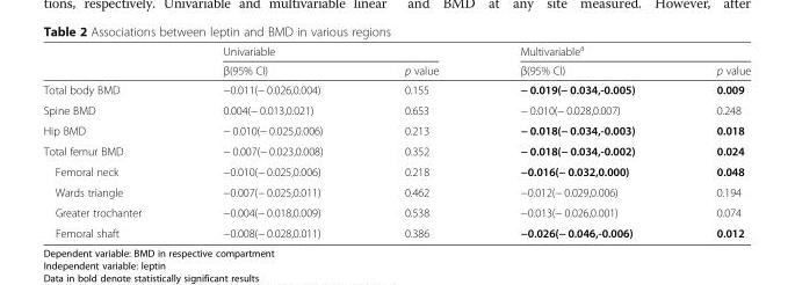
<table><thead><tr><td rowspan="2"></td><td colspan="2">Univariable</td><td colspan="2">Multivariable<sup>a</sup></td></tr><tr><td>β(95% CI)</td><td>p value</td><td>β(95% CI)</td><td>p value</td></tr></thead><tbody><tr><td>Total body BMD</td><td>−0.011(− 0.026,0.004)</td><td>0.155</td><td>− 0.019(− 0.034,-0.005)</td><td>0.009</td></tr><tr><td>Spine BMD</td><td>0.004(− 0.013,0.021)</td><td>0.653</td><td>− 0.010(− 0.028,0.007)</td><td>0.248</td></tr><tr><td>Hip BMD</td><td>− 0.010(− 0.025,0.006)</td><td>0.213</td><td>− 0.018(− 0.034,-0.003)</td><td>0.018</td></tr><tr><td>Total femur BMD</td><td>− 0.007(− 0.023,0.008)</td><td>0.352</td><td>− 0.018(− 0.034,-0.002)</td><td>0.024</td></tr><tr><td>Femoral neck</td><td>−0.010(− 0.025,0.006)</td><td>0.218</td><td>−0.016(− 0.032,0.000)</td><td>0.048</td></tr><tr><td>Wards triangle</td><td>−0.007(− 0.025,0.011)</td><td>0.462</td><td>−0.012(− 0.029,0.006)</td><td>0.194</td></tr><tr><td>Greater trochanter</td><td>−0.004(− 0.018,0.009)</td><td>0.538</td><td>−0.013(− 0.026,0.001)</td><td>0.074</td></tr><tr><td>Femoral shaft</td><td>−0.008(− 0.028,0.011)</td><td>0.386</td><td>−0.026(− 0.046,-0.006)</td><td>0.012</td></tr></tbody></table>